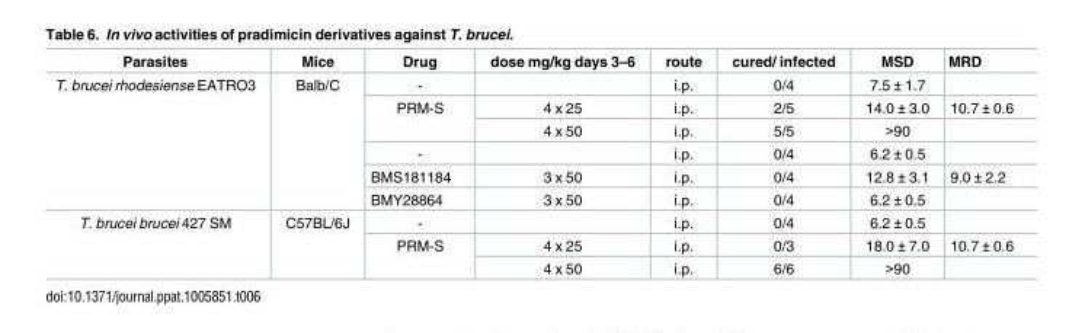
<table><thead><tr><td>Parasites</td><td>Mice</td><td>Drug</td><td>dose mg/kg days 3–6</td><td>route</td><td>cured/ infected</td><td>MSD</td><td>MRD</td></tr></thead><tbody><tr><td rowspan="6">T. brucei rhodesiense EATRO3</td><td rowspan="6">Balb/C</td><td>-</td><td></td><td>i.p.</td><td>0/4</td><td>7.5 ± 1.7</td><td></td></tr><tr><td rowspan="2">PRM-S</td><td>4 x 25</td><td>i.p.</td><td>2/5</td><td>14.0 ± 3.0</td><td>10.7 ± 0.6</td></tr><tr><td>4 x 50</td><td>i.p.</td><td>5/5</td><td>&gt;90</td><td></td></tr><tr><td>-</td><td></td><td>i.p.</td><td>0/4</td><td>6.2 ± 0.5</td><td></td></tr><tr><td>BMS181184</td><td>3 x 50</td><td>i.p.</td><td>0/4</td><td>12.8 ± 3.1</td><td>9.0 ± 2.2</td></tr><tr><td>BMY28864</td><td>3 x 50</td><td>i.p.</td><td>0/4</td><td>6.2 ± 0.5</td><td></td></tr><tr><td rowspan="3">T. brucei brucei 427 SM</td><td rowspan="3">C57BL/6J</td><td>-</td><td></td><td>i.p.</td><td>0/4</td><td>6.2 ± 0.5</td><td></td></tr><tr><td rowspan="2">PRM-S</td><td>4 x 25</td><td>i.p.</td><td>0/3</td><td>18.0 ± 7.0</td><td>10.7 ± 0.6</td></tr><tr><td>4 x 50</td><td>i.p.</td><td>6/6</td><td>&gt;90</td><td></td></tr></tbody></table>